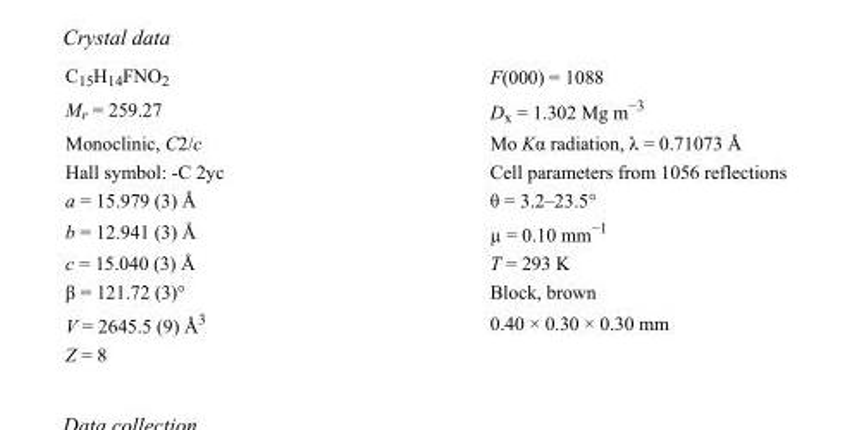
<table><tbody><tr><td>C<sub>15</sub>H<sub>14</sub>FNO<sub>2</sub></td><td>F(000) = 1088</td></tr><tr><td>M<sub>r</sub> = 259.27</td><td>D<sub>x</sub> = 1.302 Mg m<sup>−3</sup></td></tr><tr><td>Monoclinic, C2/c</td><td>Mo Kα radiation, λ = 0.71073 Å</td></tr><tr><td>Hall symbol: -C 2yc</td><td>Cell parameters from 1056 reflections</td></tr><tr><td>a = 15.979 (3) Å</td><td>θ = 3.2–23.5°</td></tr><tr><td>b = 12.941 (3) Å</td><td>µ = 0.10 mm<sup>−1</sup></td></tr><tr><td>c = 15.040 (3) Å</td><td>T = 293 K</td></tr><tr><td>β = 121.72 (3)°</td><td>Block, brown</td></tr><tr><td>V = 2645.5 (9) Å<sup>3</sup></td><td>0.40 × 0.30 × 0.30 mm</td></tr><tr><td>Z = 8</td><td></td></tr></tbody></table>